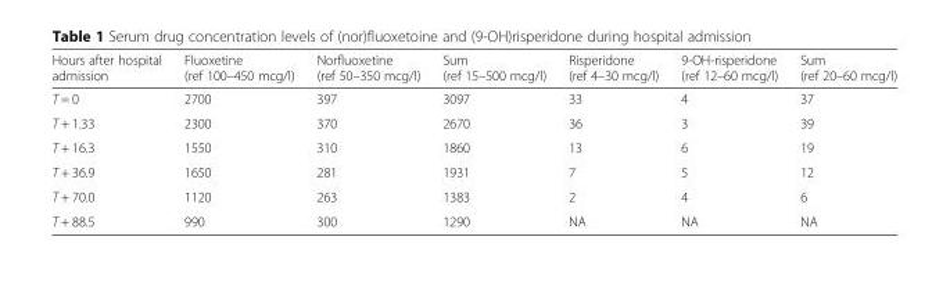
<table><thead><tr><td>Hours after hospital admission</td><td>Fluoxetine (ref 100–450 mcg/l)</td><td>Norfluoxetine (ref 50–350 mcg/l)</td><td>Sum (ref 15–500 mcg/l)</td><td>Risperidone (ref 4–30 mcg/l)</td><td>9-OH-risperidone (ref 12–60 mcg/l)</td><td>Sum (ref 20–60 mcg/l)</td></tr></thead><tbody><tr><td>T = 0</td><td>2700</td><td>397</td><td>3097</td><td>33</td><td>4</td><td>37</td></tr><tr><td>T + 1.33</td><td>2300</td><td>370</td><td>2670</td><td>36</td><td>3</td><td>39</td></tr><tr><td>T + 16.3</td><td>1550</td><td>310</td><td>1860</td><td>13</td><td>6</td><td>19</td></tr><tr><td>T + 36.9</td><td>1650</td><td>281</td><td>1931</td><td>7</td><td>5</td><td>12</td></tr><tr><td>T + 70.0</td><td>1120</td><td>263</td><td>1383</td><td>2</td><td>4</td><td>6</td></tr><tr><td>T + 88.5</td><td>990</td><td>300</td><td>1290</td><td>NA</td><td>NA</td><td>NA</td></tr></tbody></table>